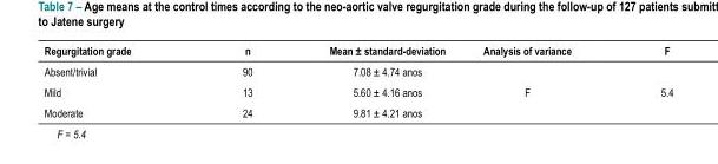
<table><thead><tr><td>Regurgitation grade</td><td>n</td><td>Mean ± standard-deviation</td><td>Analysis of variance</td><td>F</td></tr></thead><tbody><tr><td>Absent/trivial</td><td>90</td><td>7.08 ± 4.74 anos</td><td rowspan="3">F</td><td rowspan="3">5.4</td></tr><tr><td>Mild</td><td>13</td><td>5.60 ± 4.16 anos</td></tr><tr><td>Moderate</td><td>24</td><td>9.81 ± 4.21 anos</td></tr></tbody></table>